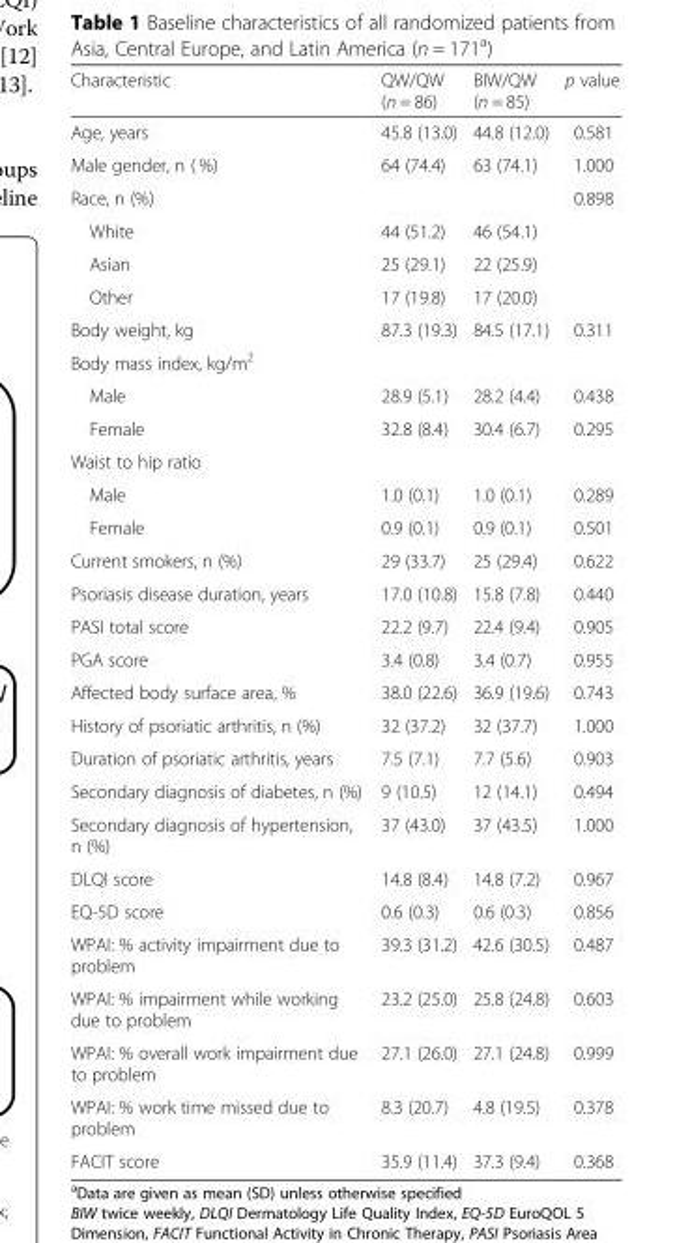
<table><thead><tr><td>Characteristic</td><td>QW/QW (n = 86)</td><td>BIW/QW (n = 85)</td><td>p value</td></tr></thead><tbody><tr><td>Age, years</td><td>45.8 (13.0)</td><td>44.8 (12.0)</td><td>0.581</td></tr><tr><td>Male gender, n ( %)</td><td>64 (74.4)</td><td>63 (74.1)</td><td>1.000</td></tr><tr><td>Race, n (%)</td><td></td><td></td><td>0.898</td></tr><tr><td>White</td><td>44 (51.2)</td><td>46 (54.1)</td><td></td></tr><tr><td>Asian</td><td>25 (29.1)</td><td>22 (25.9)</td><td></td></tr><tr><td>Other</td><td>17 (19.8)</td><td>17 (20.0)</td><td></td></tr><tr><td>Body weight, kg</td><td>87.3 (19.3)</td><td>84.5 (17.1)</td><td>0.311</td></tr><tr><td colspan="4">Body mass index, kg/m<sup>2</sup></td></tr><tr><td>Male</td><td>28.9 (5.1)</td><td>28.2 (4.4)</td><td>0.438</td></tr><tr><td>Female</td><td>32.8 (8.4)</td><td>30.4 (6.7)</td><td>0.295</td></tr><tr><td colspan="4">Waist to hip ratio</td></tr><tr><td>Male</td><td>1.0 (0.1)</td><td>1.0 (0.1)</td><td>0.289</td></tr><tr><td>Female</td><td>0.9 (0.1)</td><td>0.9 (0.1)</td><td>0.501</td></tr><tr><td>Current smokers, n (%)</td><td>29 (33.7)</td><td>25 (29.4)</td><td>0.622</td></tr><tr><td>Psoriasis disease duration, years</td><td>17.0 (10.8)</td><td>15.8 (7.8)</td><td>0.440</td></tr><tr><td>PASI total score</td><td>22.2 (9.7)</td><td>22.4 (9.4)</td><td>0.905</td></tr><tr><td>PGA score</td><td>3.4 (0.8)</td><td>3.4 (0.7)</td><td>0.955</td></tr><tr><td>Affected body surface area, %</td><td>38.0 (22.6)</td><td>36.9 (19.6)</td><td>0.743</td></tr><tr><td>History of psoriatic arthritis, n (%)</td><td>32 (37.2)</td><td>32 (37.7)</td><td>1.000</td></tr><tr><td>Duration of psoriatic arthritis, years</td><td>7.5 (7.1)</td><td>7.7 (5.6)</td><td>0.903</td></tr><tr><td>Secondary diagnosis of diabetes, n (%)</td><td>9 (10.5)</td><td>12 (14.1)</td><td>0.494</td></tr><tr><td>Secondary diagnosis of hypertension, n (%)</td><td>37 (43.0)</td><td>37 (43.5)</td><td>1.000</td></tr><tr><td>DLQI score</td><td>14.8 (8.4)</td><td>14.8 (7.2)</td><td>0.967</td></tr><tr><td>EQ-5D score</td><td>0.6 (0.3)</td><td>0.6 (0.3)</td><td>0.856</td></tr><tr><td>WPAI: % activity impairment due to problem</td><td>39.3 (31.2)</td><td>42.6 (30.5)</td><td>0.487</td></tr><tr><td>WPAI: % impairment while working due to problem</td><td>23.2 (25.0)</td><td>25.8 (24.8)</td><td>0.603</td></tr><tr><td>WPAI: % overall work impairment due to problem</td><td>27.1 (26.0)</td><td>27.1 (24.8)</td><td>0.999</td></tr><tr><td>WPAI: % work time missed due to problem</td><td>8.3 (20.7)</td><td>4.8 (19.5)</td><td>0.378</td></tr><tr><td>FACIT score</td><td>35.9 (11.4)</td><td>37.3 (9.4)</td><td>0.368</td></tr></tbody></table>